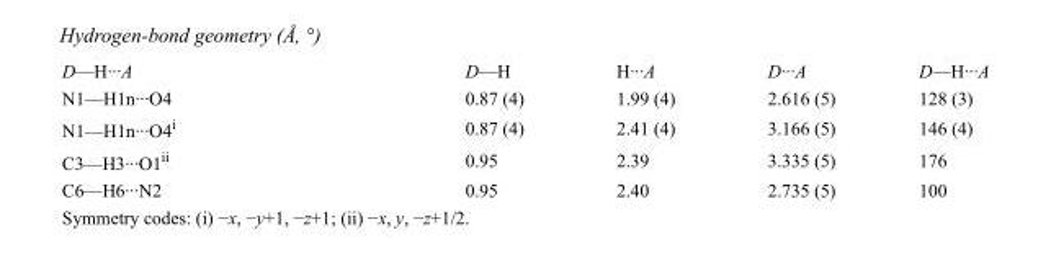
<table><tbody><tr><td>D—H···A</td><td>D—H</td><td>H···A</td><td>D···A</td><td>D—H···A</td></tr><tr><td>N1—H1n···O4</td><td>0.87 (4)</td><td>1.99 (4)</td><td>2.616 (5)</td><td>128 (3)</td></tr><tr><td>N1—H1n···O4<sup>i</sup></td><td>0.87 (4)</td><td>2.41 (4)</td><td>3.166 (5)</td><td>146 (4)</td></tr><tr><td>C3—H3···O1<sup>ii</sup></td><td>0.95</td><td>2.39</td><td>3.335 (5)</td><td>176</td></tr><tr><td>C6—H6···N2</td><td>0.95</td><td>2.40</td><td>2.735 (5)</td><td>100</td></tr></tbody></table>